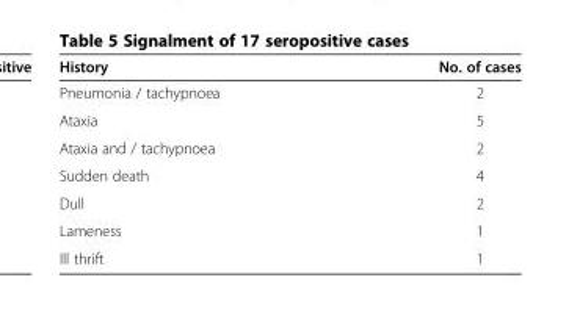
<table><thead><tr><td>History</td><td>No. of cases</td></tr></thead><tbody><tr><td>Pneumonia / tachypnoea</td><td>2</td></tr><tr><td>Ataxia</td><td>5</td></tr><tr><td>Ataxia and / tachypnoea</td><td>2</td></tr><tr><td>Sudden death</td><td>4</td></tr><tr><td>Dull</td><td>2</td></tr><tr><td>Lameness</td><td>1</td></tr><tr><td>Ill thrift</td><td>1</td></tr></tbody></table>